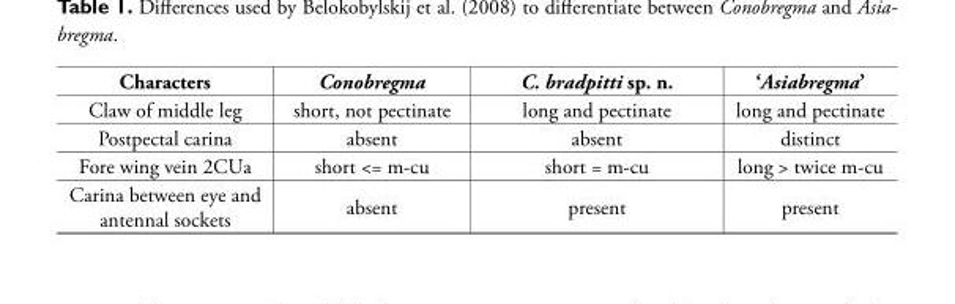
<table><thead><tr><td>Characters</td><td>Conobregma</td><td>C. bradpitti sp. n.</td><td>‘Asiabregma’</td></tr></thead><tbody><tr><td>Claw of middle leg</td><td>short, not pectinate</td><td>long and pectinate</td><td>long and pectinate</td></tr><tr><td>Postpectal carina</td><td>absent</td><td>absent</td><td>distinct</td></tr><tr><td>Fore wing vein 2CUa</td><td>short &lt;= m-cu</td><td>short = m-cu</td><td>long &gt; twice m-cu</td></tr><tr><td>Carina between eye and antennal sockets</td><td>absent</td><td>present</td><td>present</td></tr></tbody></table>